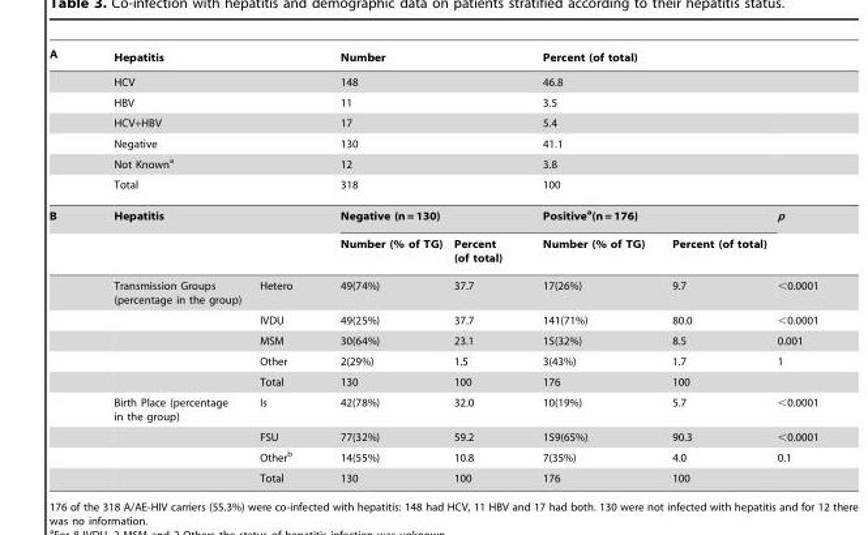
<table><thead><tr><td>A</td><td colspan="2">Hepatitis</td><td colspan="2">Number</td><td colspan="3">Percent (of total)</td></tr></thead><tbody><tr><td></td><td colspan="2">HCV</td><td colspan="2">148</td><td colspan="2">46.8</td><td></td></tr><tr><td></td><td colspan="2">HBV</td><td colspan="2">11</td><td colspan="2">3.5</td><td></td></tr><tr><td></td><td colspan="2">HCV+HBV</td><td colspan="2">17</td><td colspan="2">5.4</td><td></td></tr><tr><td></td><td colspan="2">Negative</td><td colspan="2">130</td><td colspan="2">41.1</td><td></td></tr><tr><td></td><td colspan="2">Not Known<sup>a</sup></td><td colspan="2">12</td><td colspan="2">3.8</td><td></td></tr><tr><td></td><td colspan="2">Total</td><td colspan="2">318</td><td colspan="2">100</td><td></td></tr><tr><td rowspan="11">B</td><td colspan="2">Hepatitis</td><td colspan="2">Negative (n = 130)</td><td colspan="2">Positivea(n = 176)</td><td>p</td></tr><tr><td colspan="2"></td><td>Number (% of TG)</td><td>Percent (of total)</td><td>Number (% of TG)</td><td>Percent (of total)</td><td></td></tr><tr><td>Transmission Groups (percentage in the group)</td><td>Hetero</td><td>49(74%)</td><td>37.7</td><td>17(26%)</td><td>9.7</td><td>&lt;0.0001</td></tr><tr><td></td><td>IVDU</td><td>49(25%)</td><td>37.7</td><td>141(71%)</td><td>80.0</td><td>&lt;0.0001</td></tr><tr><td></td><td>MSM</td><td>30(64%)</td><td>23.1</td><td>15(32%)</td><td>8.5</td><td>0.001</td></tr><tr><td></td><td>Other</td><td>2(29%)</td><td>1.5</td><td>3(43%)</td><td>1.7</td><td>1</td></tr><tr><td></td><td>Total</td><td>130</td><td>100</td><td>176</td><td>100</td><td></td></tr><tr><td>Birth Place (percentage in the group)</td><td>Is</td><td>42(78%)</td><td>32.0</td><td>10(19%)</td><td>5.7</td><td>&lt;0.0001</td></tr><tr><td></td><td>FSU</td><td>77(32%)</td><td>59.2</td><td>159(65%)</td><td>90.3</td><td>&lt;0.0001</td></tr><tr><td></td><td>Other<sup>b</sup></td><td>14(55%)</td><td>10.8</td><td>7(35%)</td><td>4.0</td><td>0.1</td></tr><tr><td></td><td>Total</td><td>130</td><td>100</td><td>176</td><td>100</td><td></td></tr></tbody></table>